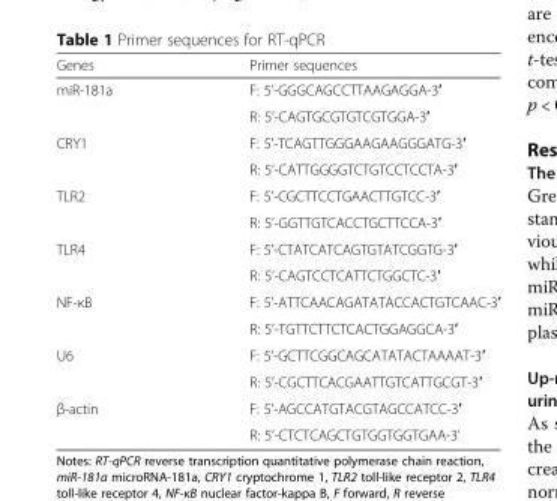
<table><thead><tr><td>Genes</td><td>Primer sequences</td></tr></thead><tbody><tr><td rowspan="2">miR-181a</td><td>F: 5’-GGGCAGCCTTAAGAGGA-3′</td></tr><tr><td>R: 5’-CAGTGCGTGTCGTGGA-3′</td></tr><tr><td rowspan="2">CRY1</td><td>F: 5’-TCAGTTGGGAAGAAGGGATG-3′</td></tr><tr><td>R: 5’-CATTGGGGTCTGTCCTCCTA-3′</td></tr><tr><td rowspan="2">TLR2</td><td>F: 5’-CGCTTCCTGAACTTGTCC-3′</td></tr><tr><td>R: 5’-GGTTGTCACCTGCTTCCA-3′</td></tr><tr><td rowspan="2">TLR4</td><td>F: 5’-CTATCATCAGTGTATCGGTG-3′</td></tr><tr><td>R: 5’-CAGTCCTCATTCTGGCTC-3′</td></tr><tr><td rowspan="2">NF-κB</td><td>F: 5’-ATTCAACAGATATACCACTGTCAAC-3′</td></tr><tr><td>R: 5’-TGTTCTTCTCACTGGAGGCA-3′</td></tr><tr><td rowspan="2">U6</td><td>F: 5’-GCTTCGGCAGCATATACTAAAAT-3′</td></tr><tr><td>R: 5’-CGCTTCACGAATTGTCATTGCGT-3′</td></tr><tr><td rowspan="2">β-actin</td><td>F: 5’-AGCCATGTACGTAGCCATCC-3′</td></tr><tr><td>R: 5’-CTCTCAGCTGTGGTGGTGAA-3’</td></tr></tbody></table>